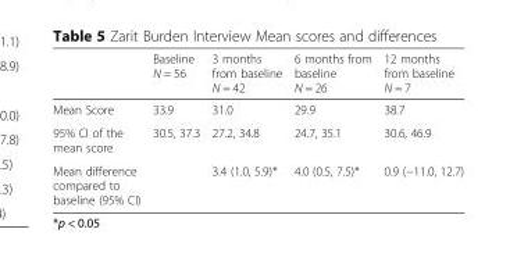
<table><thead><tr><td></td><td>Baseline N = 56</td><td>3 months from baseline N = 42</td><td>6 months from baseline N = 26</td><td>12 months from baseline N = 7</td></tr></thead><tbody><tr><td>Mean Score</td><td>33.9</td><td>31.0</td><td>29.9</td><td>38.7</td></tr><tr><td>95% CI of the mean score</td><td>30.5, 37.3</td><td>27.2, 34.8</td><td>24.7, 35.1</td><td>30.6, 46.9</td></tr><tr><td>Mean difference compared to baseline (95% CI)</td><td></td><td>3.4 (1.0, 5.9)*</td><td>4.0 (0.5, 7.5)*</td><td>0.9 (−11.0, 12.7)</td></tr></tbody></table>